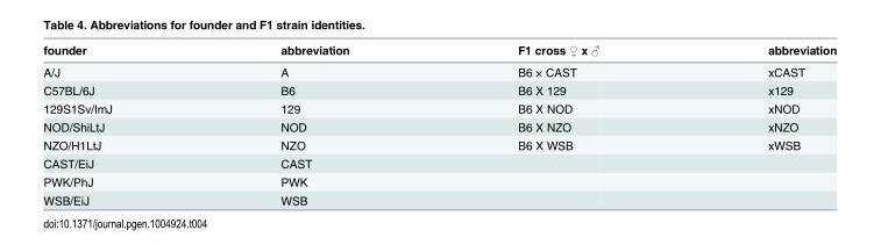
<table><thead><tr><td>founder</td><td>abbreviation</td><td>F1 cross ♀ x ♂</td><td>abbreviation</td></tr></thead><tbody><tr><td>A/J</td><td>A</td><td>B6 × CAST</td><td>xCAST</td></tr><tr><td>C57BL/6J</td><td>B6</td><td>B6 X 129</td><td>x129</td></tr><tr><td>129S1Sv/ImJ</td><td>129</td><td>B6 X NOD</td><td>xNOD</td></tr><tr><td>NOD/ShiLtJ</td><td>NOD</td><td>B6 X NZO</td><td>xNZO</td></tr><tr><td>NZO/H1LtJ</td><td>NZO</td><td>B6 X WSB</td><td>xWSB</td></tr><tr><td>CAST/EiJ</td><td>CAST</td><td></td><td></td></tr><tr><td>PWK/PhJ</td><td>PWK</td><td></td><td></td></tr><tr><td>WSB/EiJ</td><td>WSB</td><td></td><td></td></tr></tbody></table>